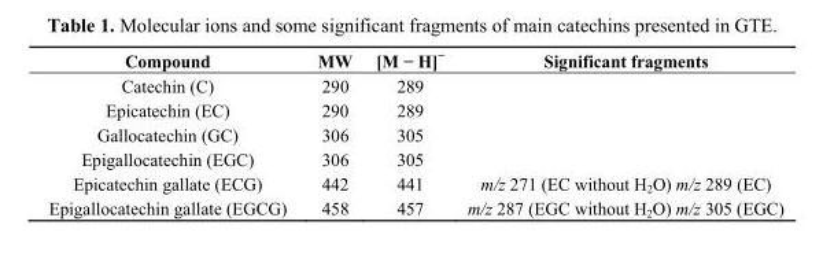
<table><thead><tr><td>Compound</td><td>MW</td><td>[M − H]<sup>−</sup></td><td>Significant fragments</td></tr></thead><tbody><tr><td>Catechin (C)</td><td>290</td><td>289</td><td></td></tr><tr><td>Epicatechin (EC)</td><td>290</td><td>289</td><td></td></tr><tr><td>Gallocatechin (GC)</td><td>306</td><td>305</td><td></td></tr><tr><td>Epigallocatechin (EGC)</td><td>306</td><td>305</td><td></td></tr><tr><td>Epicatechin gallate (ECG)</td><td>442</td><td>441</td><td>m/z 271 (EC without H<sub>2</sub>O) m/z 289 (EC)</td></tr><tr><td>Epigallocatechin gallate (EGCG)</td><td>458</td><td>457</td><td>m/z 287 (EGC without H<sub>2</sub>O) m/z 305 (EGC)</td></tr></tbody></table>